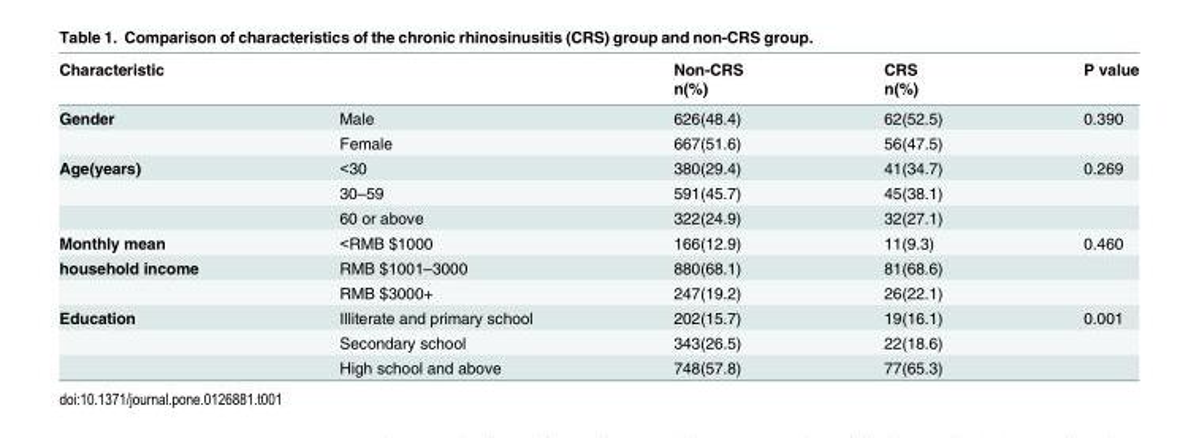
<table><thead><tr><td rowspan="2">Characteristic</td><td rowspan="2"></td><td rowspan="2">Non-CRS n(%)</td><td rowspan="2">CRS n(%)</td><td rowspan="2">P value</td></tr><tr></tr></thead><tbody><tr><td rowspan="2">Gender</td><td>Male</td><td>626(48.4)</td><td>62(52.5)</td><td>0.390</td></tr><tr><td>Female</td><td>667(51.6)</td><td>56(47.5)</td><td></td></tr><tr><td rowspan="3">Age(years)</td><td>&lt;30</td><td>380(29.4)</td><td>41(34.7)</td><td>0.269</td></tr><tr><td>30–59</td><td>591(45.7)</td><td>45(38.1)</td><td></td></tr><tr><td>60 or above</td><td>322(24.9)</td><td>32(27.1)</td><td></td></tr><tr><td>Monthly mean</td><td>&lt;RMB $1000</td><td>166(12.9)</td><td>11(9.3)</td><td>0.460</td></tr><tr><td rowspan="2">household income</td><td>RMB $1001–3000</td><td>880(68.1)</td><td>81(68.6)</td><td></td></tr><tr><td>RMB $3000+</td><td>247(19.2)</td><td>26(22.1)</td><td></td></tr><tr><td rowspan="3">Education</td><td>Illiterate and primary school</td><td>202(15.7)</td><td>19(16.1)</td><td>0.001</td></tr><tr><td>Secondary school</td><td>343(26.5)</td><td>22(18.6)</td><td></td></tr><tr><td>High school and above</td><td>748(57.8)</td><td>77(65.3)</td><td></td></tr></tbody></table>